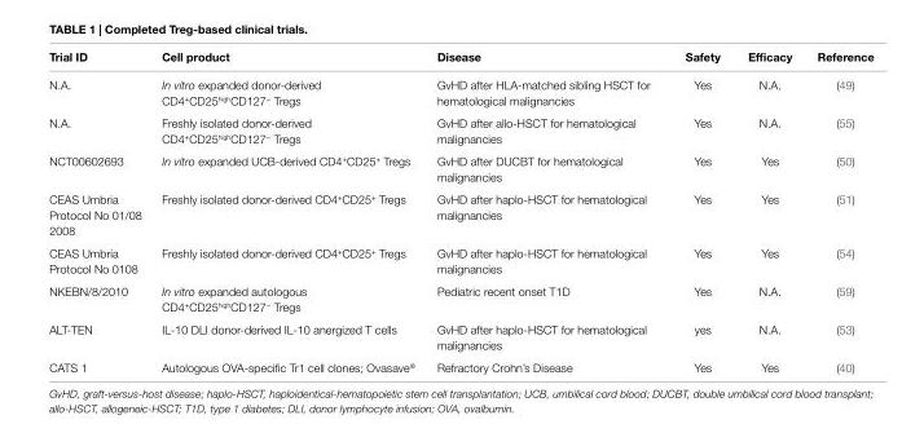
<table><thead><tr><td>trial iD</td><td>cell product</td><td>Disease</td><td>safety</td><td>efficacy</td><td>reference</td></tr></thead><tbody><tr><td>N.A.</td><td>In vitro expanded donor-derived CD4<sup>+</sup>CD25<sup>high</sup>CD127<sup>−</sup> Tregs</td><td>GvHD after HLA-matched sibling HSCT for hematological malignancies</td><td>Yes</td><td>N.A.</td><td>(49)</td></tr><tr><td>N.A.</td><td>Freshly isolated donor-derived CD4<sup>+</sup>CD25<sup>high</sup>CD127<sup>−</sup> Tregs</td><td>GvHD after allo-HSCT for hematological malignancies</td><td>Yes</td><td>N.A.</td><td>(55)</td></tr><tr><td>NCT00602693</td><td>In vitro expanded UCB-derived CD4<sup>+</sup>CD25<sup>+</sup> Tregs</td><td>GvHD after DUCBT for hematological malignancies</td><td>Yes</td><td>Yes</td><td>(50)</td></tr><tr><td>CEAS Umbria Protocol No 01/08 2008</td><td>Freshly isolated donor-derived CD4<sup>+</sup>CD25<sup>+</sup> Tregs</td><td>GvHD after haplo-HSCT for hematological malignancies</td><td>Yes</td><td>Yes</td><td>(51)</td></tr><tr><td>CEAS Umbria Protocol No 0108</td><td>Freshly isolated donor-derived CD4<sup>+</sup>CD25<sup>+</sup> Tregs</td><td>GvHD after haplo-HSCT for hematological malignancies</td><td>Yes</td><td>Yes</td><td>(54)</td></tr><tr><td>NKEBN/8/2010</td><td>In vitro expanded autologous CD4<sup>+</sup>CD25<sup>high</sup>CD127<sup>−</sup> Tregs</td><td>Pediatric recent onset T1D</td><td>Yes</td><td>N.A.</td><td>(59)</td></tr><tr><td>ALT-TEN</td><td>IL-10 DLI donor-derived IL-10 anergized T cells</td><td>GvHD after haplo-HSCT for hematological malignancies</td><td>yes</td><td>N.A.</td><td>(53)</td></tr><tr><td>CATS 1</td><td>Autologous OVA-specific Tr1 cell clones; Ovasave<sup>®</sup></td><td>Refractory Crohn’s Disease</td><td>Yes</td><td>Yes</td><td>(40)</td></tr></tbody></table>